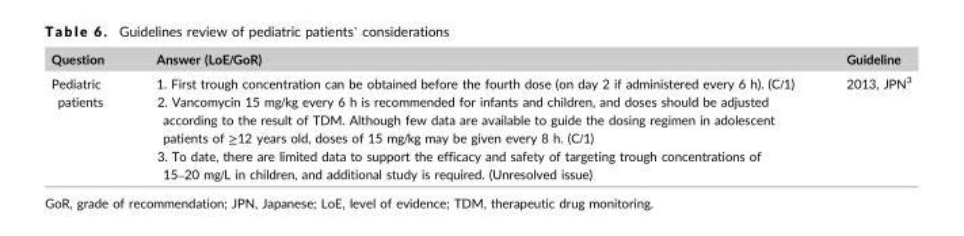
<table><thead><tr><td>Question</td><td>Answer (LoE/GoR)</td><td>Guideline</td></tr></thead><tbody><tr><td>Pediatric patients</td><td>1. First trough concentration can be obtained before the fourth dose (on day 2 if administered every 6 h). (C/1) 2. Vancomycin 15 mg/kg every 6 h is recommended for infants and children, and doses should be adjusted according to the result of TDM. Although few data are available to guide the dosing regimen in adolescent patients of ≥12 years old, doses of 15 mg/kg may be given every 8 h. (C/1) 3. To date, there are limited data to support the efficacy and safety of targeting trough concentrations of 15–20 mg/L in children, and additional study is required. (Unresolved issue)</td><td>2013, JPN<sup>3</sup></td></tr></tbody></table>